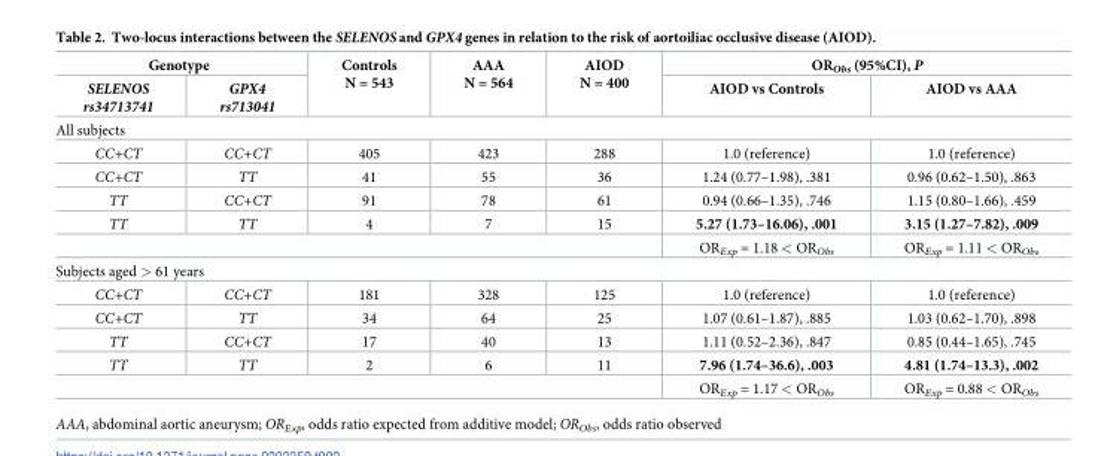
<table><thead><tr><td colspan="2">Genotype</td><td rowspan="2">Controls N = 543</td><td rowspan="2">AAA N = 564</td><td rowspan="2">AIOD N = 400</td><td colspan="2">OR<sub>Obs</sub> (95%CI), P</td></tr><tr><td>SELENOS rs34713741</td><td>GPX4 rs713041</td><td>AIOD vs Controls</td><td>AIOD vs AAA</td></tr></thead><tbody><tr><td colspan="7">All subjects</td></tr><tr><td>CC+CT</td><td>CC+CT</td><td>405</td><td>423</td><td>288</td><td>1.0 (reference)</td><td>1.0 (reference)</td></tr><tr><td>CC+CT</td><td>TT</td><td>41</td><td>55</td><td>36</td><td>1.24 (0.77–1.98), .381</td><td>0.96 (0.62–1.50), .863</td></tr><tr><td>TT</td><td>CC+CT</td><td>91</td><td>78</td><td>61</td><td>0.94 (0.66–1.35), .746</td><td>1.15 (0.80–1.66), .459</td></tr><tr><td>TT</td><td>TT</td><td>4</td><td>7</td><td>15</td><td>5.27 (1.73–16.06), .001</td><td>3.15 (1.27–7.82), .009</td></tr><tr><td colspan="5"></td><td>OR<sub>Exp</sub> = 1.18 &lt; OR<sub>Obs</sub></td><td>OR<sub>Exp</sub> = 1.11 &lt; OR<sub>Obs</sub></td></tr><tr><td colspan="7">Subjects aged &gt; 61 years</td></tr><tr><td>CC+CT</td><td>CC+CT</td><td>181</td><td>328</td><td>125</td><td>1.0 (reference)</td><td>1.0 (reference)</td></tr><tr><td>CC+CT</td><td>TT</td><td>34</td><td>64</td><td>25</td><td>1.07 (0.61–1.87), .885</td><td>1.03 (0.62–1.70), .898</td></tr><tr><td>TT</td><td>CC+CT</td><td>17</td><td>40</td><td>13</td><td>1.11 (0.52–2.36), .847</td><td>0.85 (0.44–1.65), .745</td></tr><tr><td>TT</td><td>TT</td><td>2</td><td>6</td><td>11</td><td>7.96 (1.74–36.6), .003</td><td>4.81 (1.74–13.3), .002</td></tr><tr><td colspan="5"></td><td>OR<sub>Exp</sub> = 1.17 &lt; OR<sub>Obs</sub></td><td>OR<sub>Exp</sub> = 0.88 &lt; OR<sub>Obs</sub></td></tr></tbody></table>